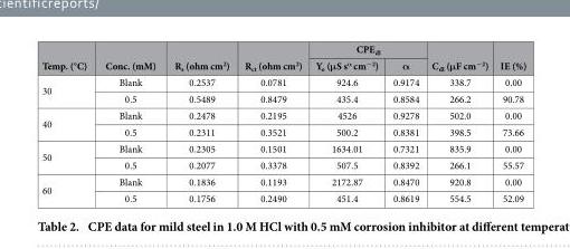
<table><thead><tr><td rowspan="2">Temp. (°C)</td><td rowspan="2">Conc. (mM)</td><td rowspan="2">R<sub>s</sub> (ohm cm<sup>2</sup>)</td><td rowspan="2">R<sub>ct</sub> (ohm cm<sup>2</sup>)</td><td colspan="2">CPE<sub>dl</sub></td><td rowspan="2">C<sub>dl</sub> (μF cm<sup>−2</sup>)</td><td rowspan="2">IE (%)</td></tr><tr><td>Y<sub>o</sub> (μS s<sup>α</sup> cm<sup>−2</sup>)</td><td>α</td></tr></thead><tbody><tr><td rowspan="2">30</td><td>Blank</td><td>0.2537</td><td>0.0781</td><td>924.6</td><td>0.9174</td><td>338.7</td><td>0.00</td></tr><tr><td>0.5</td><td>0.5489</td><td>0.8479</td><td>435.4</td><td>0.8584</td><td>266.2</td><td>90.78</td></tr><tr><td rowspan="2">40</td><td>Blank</td><td>0.2478</td><td>0.2195</td><td>4526</td><td>0.9278</td><td>502.0</td><td>0.00</td></tr><tr><td>0.5</td><td>0.2311</td><td>0.3521</td><td>500.2</td><td>0.8381</td><td>398.5</td><td>73.66</td></tr><tr><td rowspan="2">50</td><td>Blank</td><td>0.2305</td><td>0.1501</td><td>1634.01</td><td>0.7321</td><td>835.9</td><td>0.00</td></tr><tr><td>0.5</td><td>0.2077</td><td>0.3378</td><td>507.5</td><td>0.8392</td><td>266.1</td><td>55.57</td></tr><tr><td rowspan="2">60</td><td>Blank</td><td>0.1836</td><td>0.1193</td><td>2172.87</td><td>0.8470</td><td>920.8</td><td>0.00</td></tr><tr><td>0.5</td><td>0.1756</td><td>0.2490</td><td>451.4</td><td>0.8619</td><td>554.5</td><td>52.09</td></tr></tbody></table>